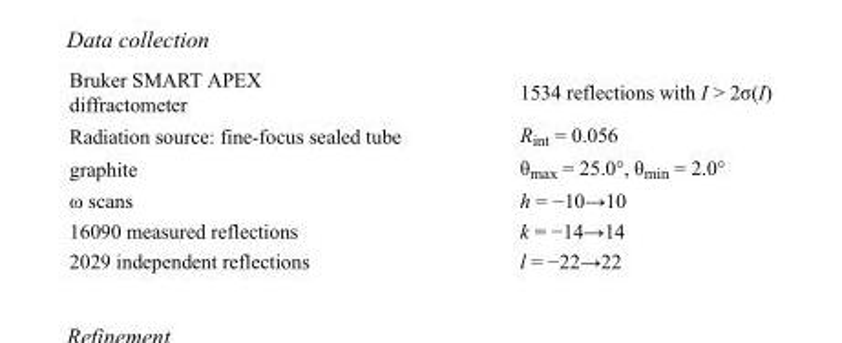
<table><tbody><tr><td>Bruker SMART APEX diffractometer</td><td>1534 reflections with I &gt; 2σ(I)</td></tr><tr><td>Radiation source: fine-focus sealed tube</td><td>R<sub>int</sub> = 0.056</td></tr><tr><td>graphite</td><td>θ<sub>max</sub> = 25.0°, θ<sub>min</sub> = 2.0°</td></tr><tr><td>ω scans</td><td>h = −10→10</td></tr><tr><td>16090 measured reflections</td><td>k = −14→14</td></tr><tr><td>2029 independent reflections</td><td>l = −22→22</td></tr></tbody></table>